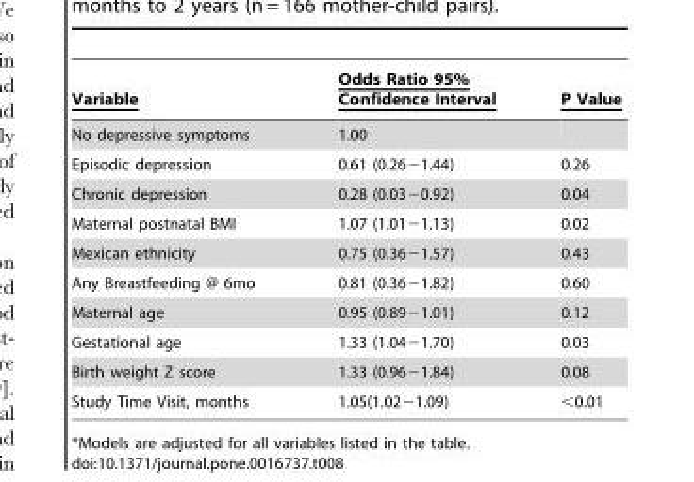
<table><thead><tr><td>Variable</td><td>Odds Ratio 95% Confidence Interval</td><td>P Value</td></tr></thead><tbody><tr><td>No depressive symptoms</td><td>1.00</td><td></td></tr><tr><td>Episodic depression</td><td>0.61 (0.26−1.44)</td><td>0.26</td></tr><tr><td>Chronic depression</td><td>0.28 (0.03−0.92)</td><td>0.04</td></tr><tr><td>Maternal postnatal BMI</td><td>1.07 (1.01−1.13)</td><td>0.02</td></tr><tr><td>Mexican ethnicity</td><td>0.75 (0.36−1.57)</td><td>0.43</td></tr><tr><td>Any Breastfeeding @ 6mo</td><td>0.81 (0.36−1.82)</td><td>0.60</td></tr><tr><td>Maternal age</td><td>0.95 (0.89−1.01)</td><td>0.12</td></tr><tr><td>Gestational age</td><td>1.33 (1.04−1.70)</td><td>0.03</td></tr><tr><td>Birth weight Z score</td><td>1.33 (0.96−1.84)</td><td>0.08</td></tr><tr><td>Study Time Visit, months</td><td>1.05(1.02−1.09)</td><td>&lt;0.01</td></tr></tbody></table>